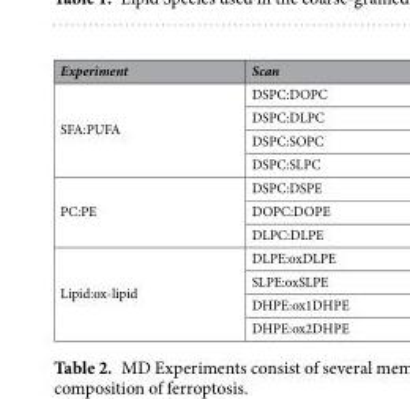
<table><thead><tr><td>Experiment</td><td>Scan</td></tr></thead><tbody><tr><td rowspan="4">SFA:PUFA</td><td>DSPC:DOPC</td></tr><tr><td>DSPC:DLPC</td></tr><tr><td>DSPC:SOPC</td></tr><tr><td>DSPC:SLPC</td></tr><tr><td rowspan="3">PC:PE</td><td>DSPC:DSPE</td></tr><tr><td>DOPC:DOPE</td></tr><tr><td>DLPC:DLPE</td></tr><tr><td rowspan="4">Lipid:ox-lipid</td><td>DLPE:oxDLPE</td></tr><tr><td>SLPE:oxSLPE</td></tr><tr><td>DHPE:ox1DHPE</td></tr><tr><td>DHPE:ox2DHPE</td></tr></tbody></table>